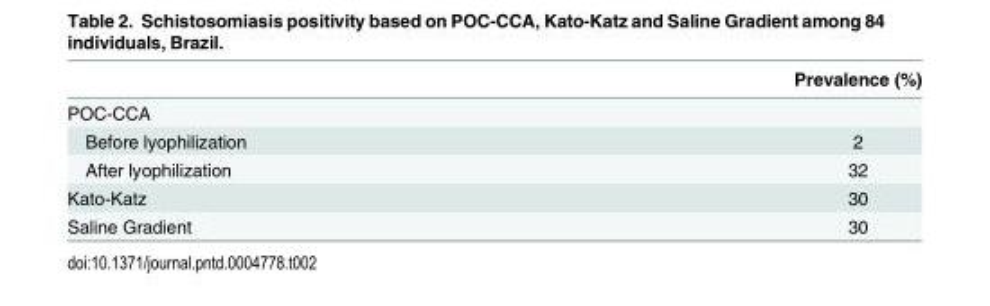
<table><thead><tr><td></td><td>Prevalence (%)</td></tr></thead><tbody><tr><td colspan="2">POC-CCA</td></tr><tr><td>Before lyophilization</td><td>2</td></tr><tr><td>After lyophilization</td><td>32</td></tr><tr><td>Kato-Katz</td><td>30</td></tr><tr><td>Saline Gradient</td><td>30</td></tr></tbody></table>